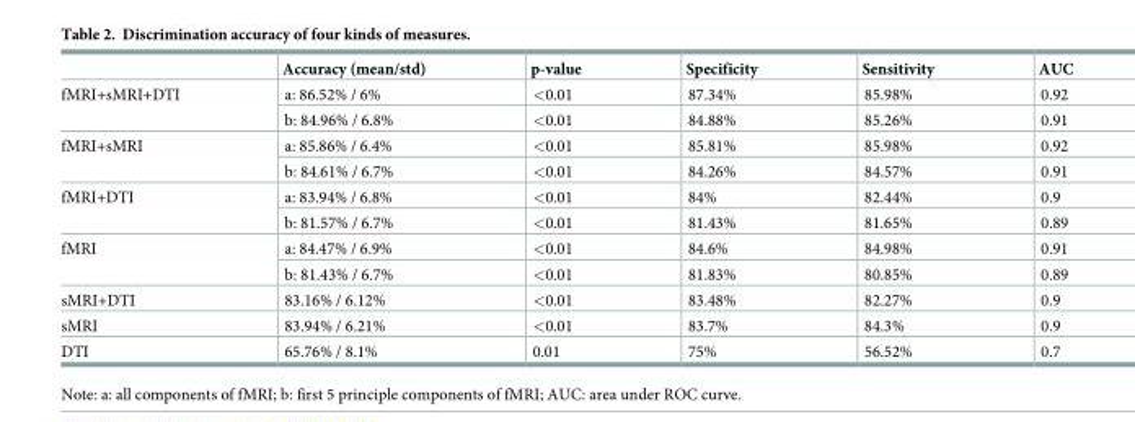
<table><thead><tr><td></td><td>Accuracy (mean/std)</td><td>p-value</td><td>Specificity</td><td>Sensitivity</td><td>AUC</td></tr></thead><tbody><tr><td rowspan="2">fMRI+sMRI+DTI</td><td>a: 86.52% / 6%</td><td>&lt;0.01</td><td>87.34%</td><td>85.98%</td><td>0.92</td></tr><tr><td>b: 84.96% / 6.8%</td><td>&lt;0.01</td><td>84.88%</td><td>85.26%</td><td>0.91</td></tr><tr><td rowspan="2">fMRI+sMRI</td><td>a: 85.86% / 6.4%</td><td>&lt;0.01</td><td>85.81%</td><td>85.98%</td><td>0.92</td></tr><tr><td>b: 84.61% / 6.7%</td><td>&lt;0.01</td><td>84.26%</td><td>84.57%</td><td>0.91</td></tr><tr><td rowspan="2">fMRI+DTI</td><td>a: 83.94% / 6.8%</td><td>&lt;0.01</td><td>84%</td><td>82.44%</td><td>0.9</td></tr><tr><td>b: 81.57% / 6.7%</td><td>&lt;0.01</td><td>81.43%</td><td>81.65%</td><td>0.89</td></tr><tr><td rowspan="2">fMRI</td><td>a: 84.47% / 6.9%</td><td>&lt;0.01</td><td>84.6%</td><td>84.98%</td><td>0.91</td></tr><tr><td>b: 81.43% / 6.7%</td><td>&lt;0.01</td><td>81.83%</td><td>80.85%</td><td>0.89</td></tr><tr><td>sMRI+DTI</td><td>83.16% / 6.12%</td><td>&lt;0.01</td><td>83.48%</td><td>82.27%</td><td>0.9</td></tr><tr><td>sMRI</td><td>83.94% / 6.21%</td><td>&lt;0.01</td><td>83.7%</td><td>84.3%</td><td>0.9</td></tr><tr><td>DTI</td><td>65.76% / 8.1%</td><td>0.01</td><td>75%</td><td>56.52%</td><td>0.7</td></tr></tbody></table>